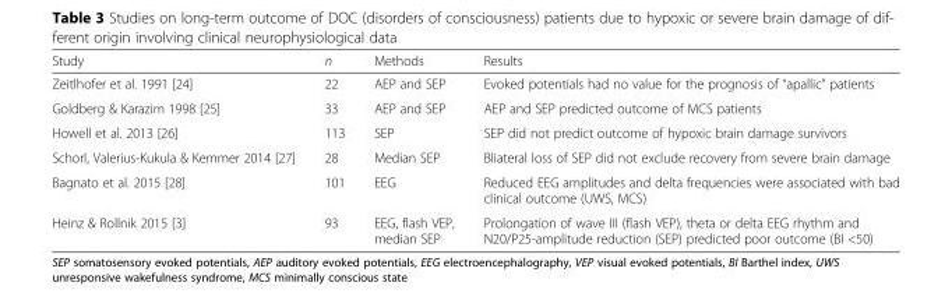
<table><thead><tr><td>Study</td><td>n</td><td>Methods</td><td>Results</td></tr></thead><tbody><tr><td>Zeitlhofer et al. 1991 [24]</td><td>22</td><td>AEP and SEP</td><td>Evoked potentials had no value for the prognosis of “apallic” patients</td></tr><tr><td>Goldberg &amp; Karazim 1998 [25]</td><td>33</td><td>AEP and SEP</td><td>AEP and SEP predicted outcome of MCS patients</td></tr><tr><td>Howell et al. 2013 [26]</td><td>113</td><td>SEP</td><td>SEP did not predict outcome of hypoxic brain damage survivors</td></tr><tr><td>Schorl, Valerius-Kukula &amp; Kemmer 2014 [27]</td><td>28</td><td>Median SEP</td><td>Bliateral loss of SEP did not exclude recovery from severe brain damage</td></tr><tr><td>Bagnato et al. 2015 [28]</td><td>101</td><td>EEG</td><td>Reduced EEG amplitudes and delta frequencies were associated with bad clinical outcome (UWS, MCS)</td></tr><tr><td>Heinz &amp; Rollnik 2015 [3]</td><td>93</td><td>EEG, flash VEP, median SEP</td><td>Prolongation of wave III (flash VEP), theta or delta EEG rhythm and N20/P25-amplitude reduction (SEP) predicted poor outcome (BI &lt;50)</td></tr></tbody></table>